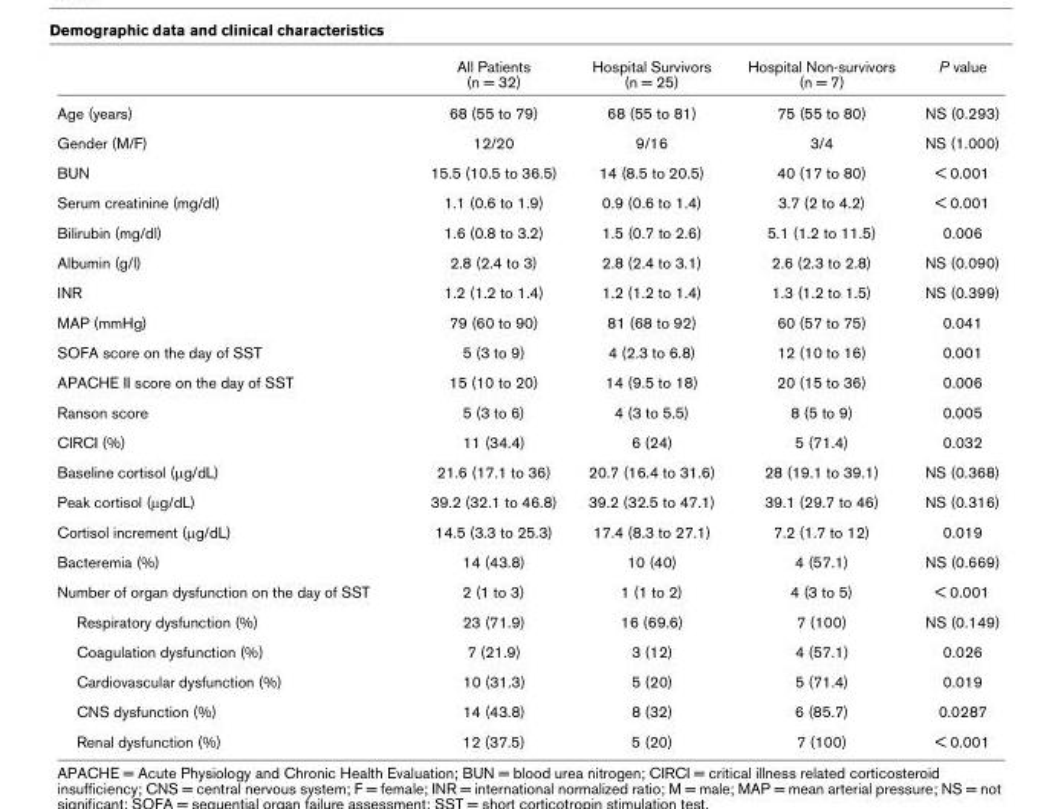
<table><thead><tr><td></td><td>All Patients (n = 32)</td><td>Hospital Survivors (n = 25)</td><td>Hospital Non-survivors (n = 7)</td><td>P value</td></tr></thead><tbody><tr><td>Age (years)</td><td>68 (55 to 79)</td><td>68 (55 to 81)</td><td>75 (55 to 80)</td><td>NS (0.293)</td></tr><tr><td>Gender (M/F)</td><td>12/20</td><td>9/16</td><td>3/4</td><td>NS (1.000)</td></tr><tr><td>BUN</td><td>15.5 (10.5 to 36.5)</td><td>14 (8.5 to 20.5)</td><td>40 (17 to 80)</td><td>&lt; 0.001</td></tr><tr><td>Serum creatinine (mg/dl)</td><td>1.1 (0.6 to 1.9)</td><td>0.9 (0.6 to 1.4)</td><td>3.7 (2 to 4.2)</td><td>&lt; 0.001</td></tr><tr><td>Bilirubin (mg/dl)</td><td>1.6 (0.8 to 3.2)</td><td>1.5 (0.7 to 2.6)</td><td>5.1 (1.2 to 11.5)</td><td>0.006</td></tr><tr><td>Albumin (g/l)</td><td>2.8 (2.4 to 3)</td><td>2.8 (2.4 to 3.1)</td><td>2.6 (2.3 to 2.8)</td><td>NS (0.090)</td></tr><tr><td>INR</td><td>1.2 (1.2 to 1.4)</td><td>1.2 (1.2 to 1.4)</td><td>1.3 (1.2 to 1.5)</td><td>NS (0.399)</td></tr><tr><td>MAP (mmHg)</td><td>79 (60 to 90)</td><td>81 (68 to 92)</td><td>60 (57 to 75)</td><td>0.041</td></tr><tr><td>SOFA score on the day of SST</td><td>5 (3 to 9)</td><td>4 (2.3 to 6.8)</td><td>12 (10 to 16)</td><td>0.001</td></tr><tr><td>APACHE II score on the day of SST</td><td>15 (10 to 20)</td><td>14 (9.5 to 18)</td><td>20 (15 to 36)</td><td>0.006</td></tr><tr><td>Ranson score</td><td>5 (3 to 6)</td><td>4 (3 to 5.5)</td><td>8 (5 to 9)</td><td>0.005</td></tr><tr><td>CIRCI (%)</td><td>11 (34.4)</td><td>6 (24)</td><td>5 (71.4)</td><td>0.032</td></tr><tr><td>Baseline cortisol (μg/dL)</td><td>21.6 (17.1 to 36)</td><td>20.7 (16.4 to 31.6)</td><td>28 (19.1 to 39.1)</td><td>NS (0.368)</td></tr><tr><td>Peak cortisol (μg/dL)</td><td>39.2 (32.1 to 46.8)</td><td>39.2 (32.5 to 47.1)</td><td>39.1 (29.7 to 46)</td><td>NS (0.316)</td></tr><tr><td>Cortisol increment (μg/dL)</td><td>14.5 (3.3 to 25.3)</td><td>17.4 (8.3 to 27.1)</td><td>7.2 (1.7 to 12)</td><td>0.019</td></tr><tr><td>Bacteremia (%)</td><td>14 (43.8)</td><td>10 (40)</td><td>4 (57.1)</td><td>NS (0.669)</td></tr><tr><td>Number of organ dysfunction on the day of SST</td><td>2 (1 to 3)</td><td>1 (1 to 2)</td><td>4 (3 to 5)</td><td>&lt; 0.001</td></tr><tr><td>Respiratory dysfunction (%)</td><td>23 (71.9)</td><td>16 (69.6)</td><td>7 (100)</td><td>NS (0.149)</td></tr><tr><td>Coagulation dysfunction (%)</td><td>7 (21.9)</td><td>3 (12)</td><td>4 (57.1)</td><td>0.026</td></tr><tr><td>Cardiovascular dysfunction (%)</td><td>10 (31.3)</td><td>5 (20)</td><td>5 (71.4)</td><td>0.019</td></tr><tr><td>CNS dysfunction (%)</td><td>14 (43.8)</td><td>8 (32)</td><td>6 (85.7)</td><td>0.0287</td></tr><tr><td>Renal dysfunction (%)</td><td>12 (37.5)</td><td>5 (20)</td><td>7 (100)</td><td>&lt; 0.001</td></tr></tbody></table>